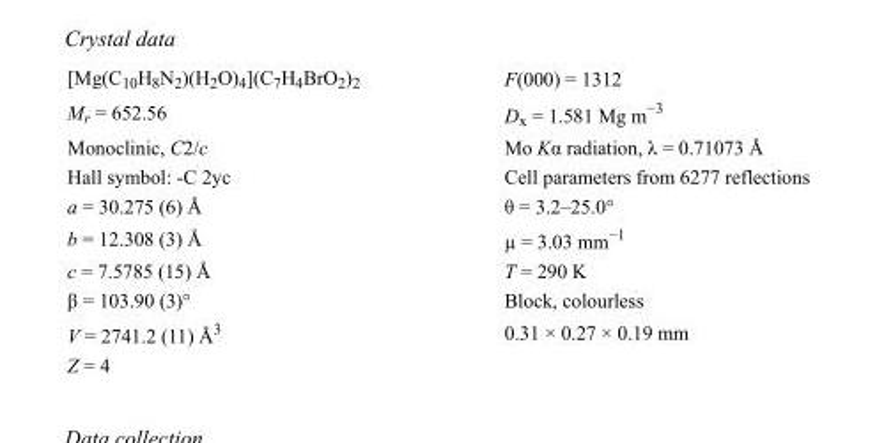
<table><tbody><tr><td>[Mg(C<sub>10</sub>H<sub>8</sub>N<sub>2</sub>)(H<sub>2</sub>O)<sub>4</sub>](C<sub>7</sub>H<sub>4</sub>BrO<sub>2</sub>)<sub>2</sub></td><td>F(000) = 1312</td></tr><tr><td>M<sub>r</sub> = 652.56</td><td>D<sub>x</sub> = 1.581 Mg m<sup>−3</sup></td></tr><tr><td>Monoclinic, C2/c</td><td>Mo Kα radiation, λ = 0.71073 Å</td></tr><tr><td>Hall symbol: -C 2yc</td><td>Cell parameters from 6277 reflections</td></tr><tr><td>a = 30.275 (6) Å</td><td>θ = 3.2–25.0°</td></tr><tr><td>b = 12.308 (3) Å</td><td>µ = 3.03 mm<sup>−1</sup></td></tr><tr><td>c = 7.5785 (15) Å</td><td>T = 290 K</td></tr><tr><td>β = 103.90 (3)°</td><td>Block, colourless</td></tr><tr><td>V = 2741.2 (11) Å<sup>3</sup></td><td>0.31 × 0.27 × 0.19 mm</td></tr><tr><td>Z = 4</td><td></td></tr></tbody></table>